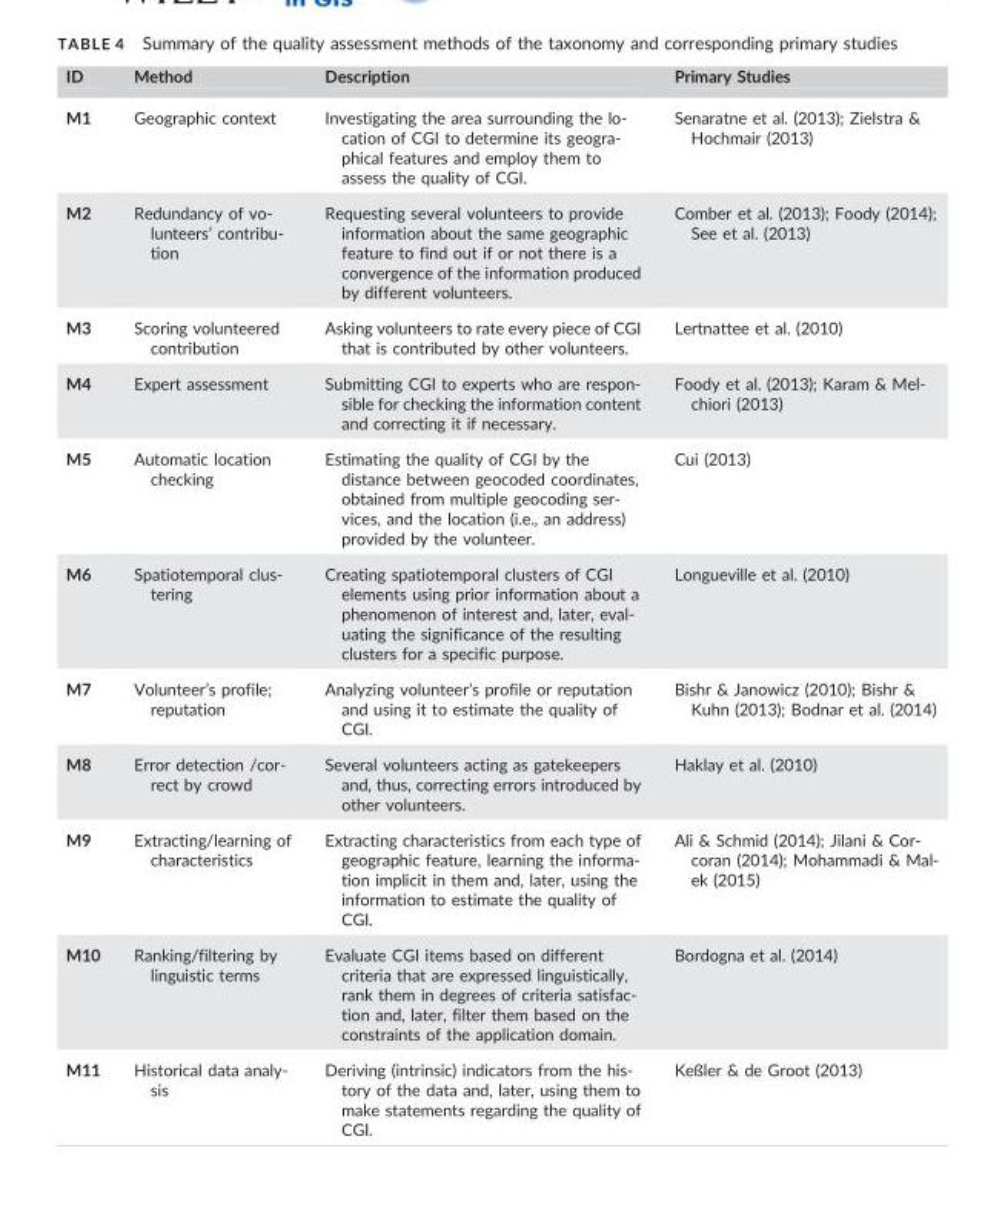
<table><thead><tr><td>ID</td><td>Method</td><td>Description</td><td>Primary Studies</td></tr></thead><tbody><tr><td>M1</td><td>Geographic context</td><td>Investigating the area surrounding the lo- cation of CGI to determine its geogra- phical features and employ them to assess the quality of CGI.</td><td>Senaratne et al. (2013); Zielstra &amp; Hochmair (2013)</td></tr><tr><td>M2</td><td>Redundancy of vo- lunteers’ contribu- tion</td><td>Requesting several volunteers to provide information about the same geographic feature to find out if or not there is a convergence of the information produced by different volunteers.</td><td>Comber et al. (2013); Foody (2014); See et al. (2013)</td></tr><tr><td>M3</td><td>Scoring volunteered contribution</td><td>Asking volunteers to rate every piece of CGI that is contributed by other volunteers.</td><td>Lertnattee et al. (2010)</td></tr><tr><td>M4</td><td>Expert assessment</td><td>Submitting CGI to experts who are respon- sible for checking the information content and correcting it if necessary.</td><td>Foody et al. (2013); Karam &amp; Mel- chiori (2013)</td></tr><tr><td>M5</td><td>Automatic location checking</td><td>Estimating the quality of CGI by the distance between geocoded coordinates, obtained from multiple geocoding ser- vices, and the location (i.e., an address) provided by the volunteer.</td><td>Cui (2013)</td></tr><tr><td>M6</td><td>Spatiotemporal clus- tering</td><td>Creating spatiotemporal clusters of CGI elements using prior information about a phenomenon of interest and, later, eval- uating the significance of the resulting clusters for a specific purpose.</td><td>Longueville et al. (2010)</td></tr><tr><td>M7</td><td>Volunteer’s profile; reputation</td><td>Analyzing volunteer’s profile or reputation and using it to estimate the quality of CGI.</td><td>Bishr &amp; Janowicz (2010); Bishr &amp; Kuhn (2013); Bodnar et al. (2014)</td></tr><tr><td>M8</td><td>Error detection /cor- rect by crowd</td><td>Several volunteers acting as gatekeepers and, thus, correcting errors introduced by other volunteers.</td><td>Haklay et al. (2010)</td></tr><tr><td>M9</td><td>Extracting/learning of characteristics</td><td>Extracting characteristics from each type of geographic feature, learning the informa- tion implicit in them and, later, using the information to estimate the quality of CGI.</td><td>Ali &amp; Schmid (2014); Jilani &amp; Cor- coran (2014); Mohammadi &amp; Mal- ek (2015)</td></tr><tr><td>M10</td><td>Ranking/filtering by linguistic terms</td><td>Evaluate CGI items based on different criteria that are expressed linguistically, rank them in degrees of criteria satisfac- tion and, later, filter them based on the constraints of the application domain.</td><td>Bordogna et al. (2014)</td></tr><tr><td>M11</td><td>Historical data analy- sis</td><td>Deriving (intrinsic) indicators from the his- tory of the data and, later, using them to make statements regarding the quality of CGI.</td><td>Keßler &amp; de Groot (2013)</td></tr></tbody></table>